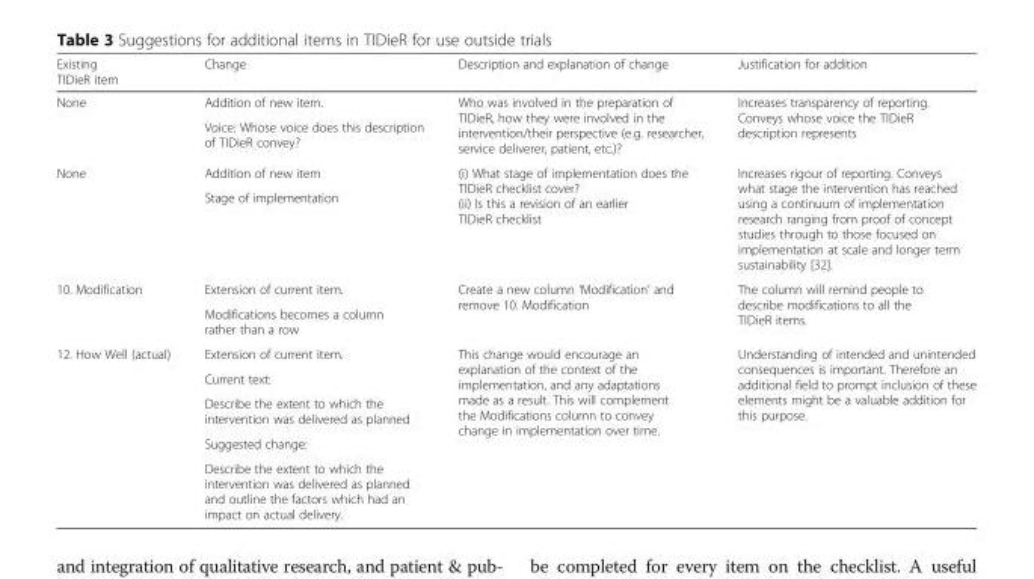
<table><thead><tr><td>Existing TIDieR item</td><td>Change</td><td>Description and explanation of change</td><td>Justification for addition</td></tr></thead><tbody><tr><td rowspan="2">None</td><td>Addition of new item.</td><td rowspan="2">Who was involved in the preparation of TIDieR, how they were involved in the intervention/their perspective (e.g. researcher, service deliverer, patient, etc.)?</td><td rowspan="2">Increases transparency of reporting. Conveys whose voice the TIDieR description represents</td></tr><tr><td>Voice: Whose voice does this description of TIDieR convey?</td></tr><tr><td rowspan="2">None</td><td>Addition of new item</td><td rowspan="2">(i) What stage of implementation does the TIDieR checklist cover? (ii) Is this a revision of an earlier TIDieR checklist</td><td rowspan="2">Increases rigour of reporting. Conveys what stage the intervention has reached using a continuum of implementation research ranging from proof of concept studies through to those focused on implementation at scale and longer term sustainability [32].</td></tr><tr><td>Stage of implementation</td></tr><tr><td rowspan="2">10. Modification</td><td>Extension of current item.</td><td rowspan="2">Create a new column ‘Modification’ and remove 10. Modification</td><td rowspan="2">The column will remind people to describe modifications to all the TIDieR items.</td></tr><tr><td>Modifications becomes a column rather than a row</td></tr><tr><td rowspan="5">12. How Well (actual)</td><td>Extension of current item.</td><td rowspan="5">This change would encourage an explanation of the context of the implementation, and any adaptations made as a result. This will complement the Modifications column to convey change in implementation over time.</td><td rowspan="5">Understanding of intended and unintended consequences is important. Therefore an additional field to prompt inclusion of these elements might be a valuable addition for this purpose.</td></tr><tr><td>Current text:</td></tr><tr><td>Describe the extent to which the intervention was delivered as planned</td></tr><tr><td>Suggested change:</td></tr><tr><td>Describe the extent to which the intervention was delivered as planned and outline the factors which had an impact on actual delivery.</td></tr></tbody></table>